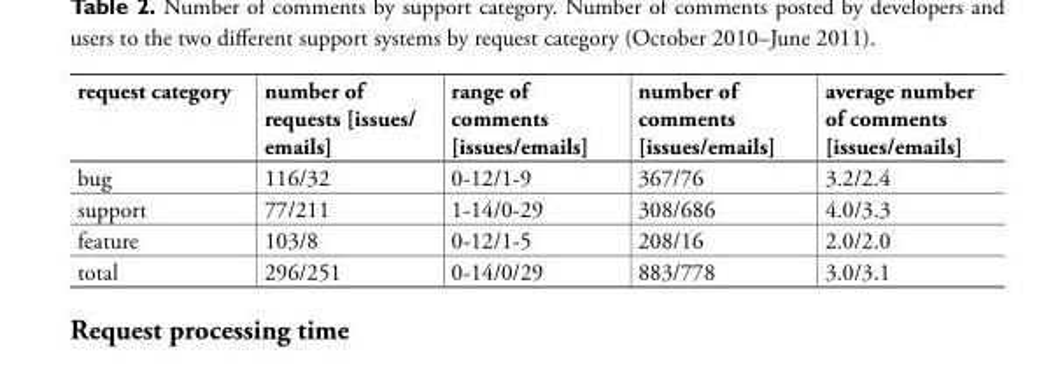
<table><thead><tr><td>request category</td><td>number of requests [issues/ emails]</td><td>range of comments [issues/emails]</td><td>number of comments [issues/emails]</td><td>average number of comments [issues/emails]</td></tr></thead><tbody><tr><td>bug</td><td>116/32</td><td>0-12/1-9</td><td>367/76</td><td>3.2/2.4</td></tr><tr><td>support</td><td>77/211</td><td>1-14/0-29</td><td>308/686</td><td>4.0/3.3</td></tr><tr><td>feature</td><td>103/8</td><td>0-12/1-5</td><td>208/16</td><td>2.0/2.0</td></tr><tr><td>total</td><td>296/251</td><td>0-14/0/29</td><td>883/778</td><td>3.0/3.1</td></tr></tbody></table>